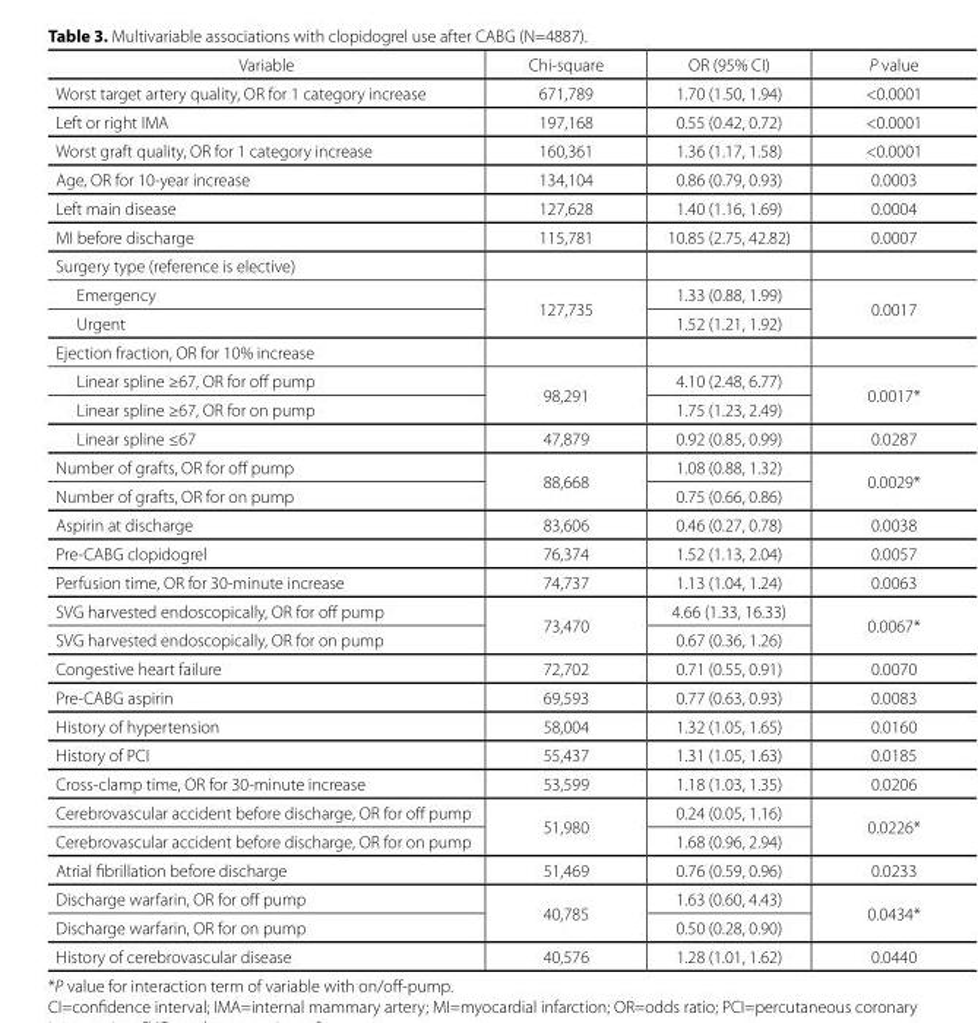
<table><thead><tr><td>Variable</td><td>Chi-square</td><td>OR (95% CI)</td><td>P value</td></tr></thead><tbody><tr><td>Worst target artery quality, OR for 1 category increase</td><td>671,789</td><td>1.70 (1.50, 1.94)</td><td>&lt;0.0001</td></tr><tr><td>Left or right IMA</td><td>197,168</td><td>0.55 (0.42, 0.72)</td><td>&lt;0.0001</td></tr><tr><td>Worst graft quality, OR for 1 category increase</td><td>160,361</td><td>1.36 (1.17, 1.58)</td><td>&lt;0.0001</td></tr><tr><td>Age, OR for 10-year increase</td><td>134,104</td><td>0.86 (0.79, 0.93)</td><td>0.0003</td></tr><tr><td>Left main disease</td><td>127,628</td><td>1.40 (1.16, 1.69)</td><td>0.0004</td></tr><tr><td>MI before discharge</td><td>115,781</td><td>10.85 (2.75, 42.82)</td><td>0.0007</td></tr><tr><td colspan="4">Surgery type (reference is elective)</td></tr><tr><td>Emergency</td><td rowspan="2">127,735</td><td>1.33 (0.88, 1.99)</td><td rowspan="2">0.0017</td></tr><tr><td>Urgent</td><td>1.52 (1.21, 1.92)</td></tr><tr><td colspan="4">Ejection fraction, OR for 10% increase</td></tr><tr><td>Linear spline ≥67, OR for off pump</td><td rowspan="2">98,291</td><td>4.10 (2.48, 6.77)</td><td rowspan="2">0.0017*</td></tr><tr><td>Linear spline ≥67, OR for on pump</td><td>1.75 (1.23, 2.49)</td></tr><tr><td>Linear spline ≤67</td><td>47,879</td><td>0.92 (0.85, 0.99)</td><td>0.0287</td></tr><tr><td>Number of grafts, OR for off pump</td><td rowspan="2">88,668</td><td>1.08 (0.88, 1.32)</td><td rowspan="2">0.0029*</td></tr><tr><td>Number of grafts, OR for on pump</td><td>0.75 (0.66, 0.86)</td></tr><tr><td>Aspirin at discharge</td><td>83,606</td><td>0.46 (0.27, 0.78)</td><td>0.0038</td></tr><tr><td>Pre-CABG clopidogrel</td><td>76,374</td><td>1.52 (1.13, 2.04)</td><td>0.0057</td></tr><tr><td>Perfusion time, OR for 30-minute increase</td><td>74,737</td><td>1.13 (1.04, 1.24)</td><td>0.0063</td></tr><tr><td>SVG harvested endoscopically, OR for off pump</td><td rowspan="2">73,470</td><td>4.66 (1.33, 16.33)</td><td rowspan="2">0.0067*</td></tr><tr><td>SVG harvested endoscopically, OR for on pump</td><td>0.67 (0.36, 1.26)</td></tr><tr><td>Congestive heart failure</td><td>72,702</td><td>0.71 (0.55, 0.91)</td><td>0.0070</td></tr><tr><td>Pre-CABG aspirin</td><td>69,593</td><td>0.77 (0.63, 0.93)</td><td>0.0083</td></tr><tr><td>History of hypertension</td><td>58,004</td><td>1.32 (1.05, 1.65)</td><td>0.0160</td></tr><tr><td>History of PCI</td><td>55,437</td><td>1.31 (1.05, 1.63)</td><td>0.0185</td></tr><tr><td>Cross-clamp time, OR for 30-minute increase</td><td>53,599</td><td>1.18 (1.03, 1.35)</td><td>0.0206</td></tr><tr><td>Cerebrovascular accident before discharge, OR for off pump</td><td rowspan="2">51,980</td><td>0.24 (0.05, 1.16)</td><td rowspan="2">0.0226*</td></tr><tr><td>Cerebrovascular accident before discharge, OR for on pump</td><td>1.68 (0.96, 2.94)</td></tr><tr><td>Atrial fibrillation before discharge</td><td>51,469</td><td>0.76 (0.59, 0.96)</td><td>0.0233</td></tr><tr><td>Discharge warfarin, OR for off pump</td><td rowspan="2">40,785</td><td>1.63 (0.60, 4.43)</td><td rowspan="2">0.0434*</td></tr><tr><td>Discharge warfarin, OR for on pump</td><td>0.50 (0.28, 0.90)</td></tr><tr><td>History of cerebrovascular disease</td><td>40,576</td><td>1.28 (1.01, 1.62)</td><td>0.0440</td></tr></tbody></table>